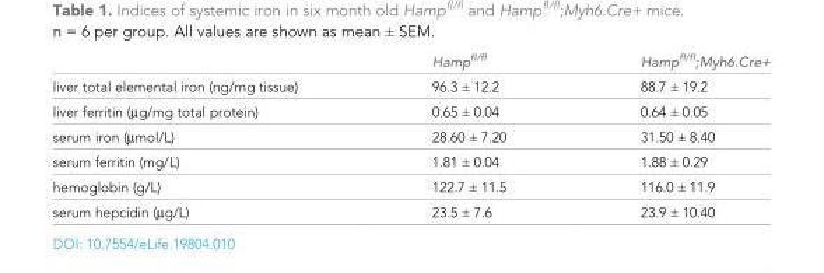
<table><thead><tr><td></td><td>Hamp<sup>fl/fl</sup></td><td>Hamp<sup>fl/fl</sup>;Myh6.Cre+</td></tr></thead><tbody><tr><td>liver total elemental iron (ng/mg tissue)</td><td>96.3 ± 12.2</td><td>88.7 ± 19.2</td></tr><tr><td>liver ferritin (µg/mg total protein)</td><td>0.65 ± 0.04</td><td>0.64 ± 0.05</td></tr><tr><td>serum iron (µmol/L)</td><td>28.60 ± 7.20</td><td>31.50 ± 8.40</td></tr><tr><td>serum ferritin (mg/L)</td><td>1.81 ± 0.04</td><td>1.88 ± 0.29</td></tr><tr><td>hemoglobin (g/L)</td><td>122.7 ± 11.5</td><td>116.0 ± 11.9</td></tr><tr><td>serum hepcidin (µg/L)</td><td>23.5 ± 7.6</td><td>23.9 ± 10.40</td></tr></tbody></table>